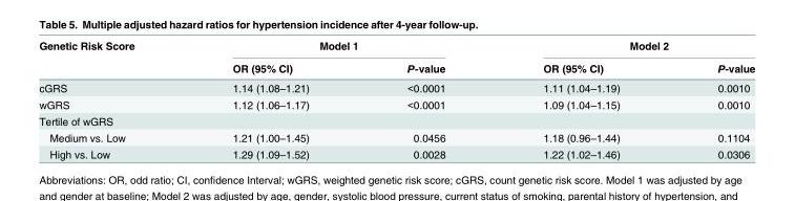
<table><thead><tr><td rowspan="2">Genetic Risk Score</td><td colspan="2">Model 1</td><td colspan="2">Model 2</td></tr><tr><td>OR (95% CI)</td><td>P-value</td><td>OR (95% CI)</td><td>P-value</td></tr></thead><tbody><tr><td>cGRS</td><td>1.14 (1.08–1.21)</td><td>&lt;0.0001</td><td>1.11 (1.04–1.19)</td><td>0.0010</td></tr><tr><td>wGRS</td><td>1.12 (1.06–1.17)</td><td>&lt;0.0001</td><td>1.09 (1.04–1.15)</td><td>0.0010</td></tr><tr><td colspan="5">Tertile of wGRS</td></tr><tr><td>Medium vs. Low</td><td>1.21 (1.00–1.45)</td><td>0.0456</td><td>1.18 (0.96–1.44)</td><td>0.1104</td></tr><tr><td>High vs. Low</td><td>1.29 (1.09–1.52)</td><td>0.0028</td><td>1.22 (1.02–1.46)</td><td>0.0306</td></tr></tbody></table>